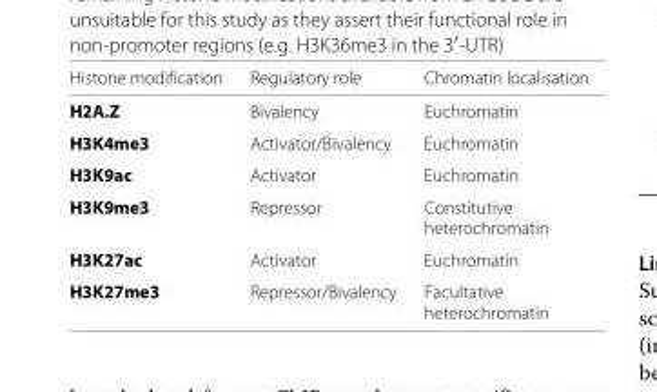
<table><thead><tr><td>Histone modification</td><td>Regulatory role</td><td>Chromatin localisation</td></tr></thead><tbody><tr><td>H2A.Z</td><td>Bivalency</td><td>Euchromatin</td></tr><tr><td>H3K4me3</td><td>Activator/Bivalency</td><td>Euchromatin</td></tr><tr><td>H3K9ac</td><td>Activator</td><td>Euchromatin</td></tr><tr><td>H3K9me3</td><td>Repressor</td><td>Constitutive heterochromatin</td></tr><tr><td>H3K27ac</td><td>Activator</td><td>Euchromatin</td></tr><tr><td>H3K27me3</td><td>Repressor/Bivalency</td><td>Facultative heterochromatin</td></tr></tbody></table>